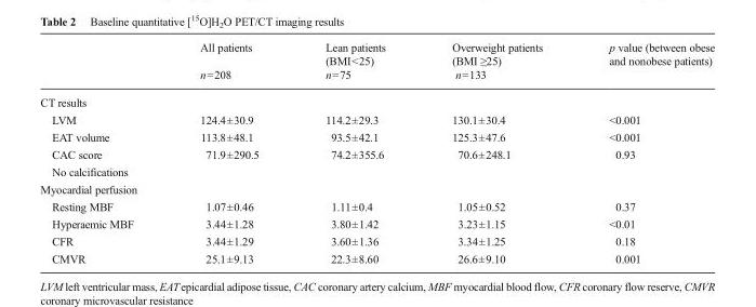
<table><thead><tr><td rowspan="2"></td><td rowspan="2">All patients n=208</td><td rowspan="2">Lean patients (BMI&lt;25) n=75</td><td rowspan="2">Overweight patients (BMI ≥25) n=133</td><td rowspan="2">p value (between obese and nonobese patients)</td></tr><tr></tr></thead><tbody><tr><td colspan="5">CT results</td></tr><tr><td>LVM</td><td>124.4±30.9</td><td>114.2±29.3</td><td>130.1±30.4</td><td>&lt;0.001</td></tr><tr><td>EAT volume</td><td>113.8±48.1</td><td>93.5±42.1</td><td>125.3±47.6</td><td>&lt;0.001</td></tr><tr><td>CAC score</td><td>71.9±290.5</td><td>74.2±355.6</td><td>70.6±248.1</td><td>0.93</td></tr><tr><td colspan="5">No calcifications</td></tr><tr><td colspan="5">Myocardial perfusion</td></tr><tr><td>Resting MBF</td><td>1.07±0.46</td><td>1.11±0.4</td><td>1.05±0.52</td><td>0.37</td></tr><tr><td>Hyperaemic MBF</td><td>3.44±1.28</td><td>3.80±1.42</td><td>3.23±1.15</td><td>&lt;0.01</td></tr><tr><td>CFR</td><td>3.44±1.29</td><td>3.60±1.36</td><td>3.34±1.25</td><td>0.18</td></tr><tr><td>CMVR</td><td>25.1±9.13</td><td>22.3±8.60</td><td>26.6±9.10</td><td>0.001</td></tr></tbody></table>